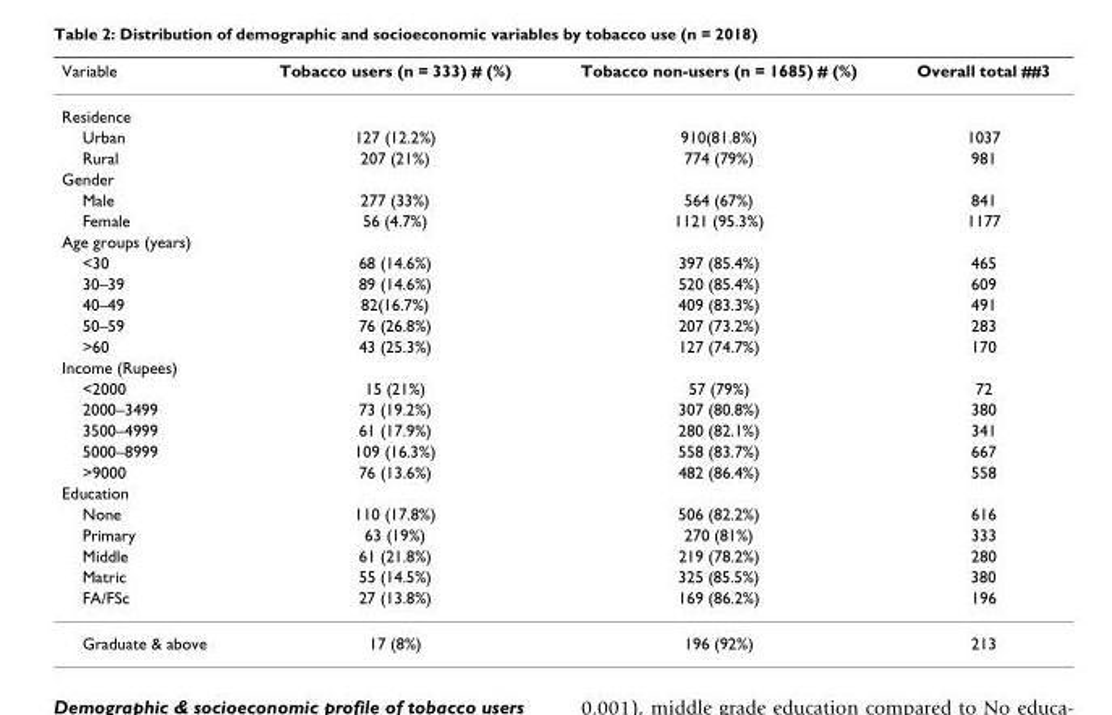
<table><thead><tr><td>Variable</td><td>Tobacco users (n = 333) # (%)</td><td>Tobacco non-users (n = 1685) # (%)</td><td>Overall total ##3</td></tr></thead><tbody><tr><td colspan="4">Residence</td></tr><tr><td>Urban</td><td>127 (12.2%)</td><td>910(81.8%)</td><td>1037</td></tr><tr><td>Rural</td><td>207 (21%)</td><td>774 (79%)</td><td>981</td></tr><tr><td colspan="4">Gender</td></tr><tr><td>Male</td><td>277 (33%)</td><td>564 (67%)</td><td>841</td></tr><tr><td>Female</td><td>56 (4.7%)</td><td>1121 (95.3%)</td><td>1177</td></tr><tr><td colspan="4">Age groups (years)</td></tr><tr><td>&lt;30</td><td>68 (14.6%)</td><td>397 (85.4%)</td><td>465</td></tr><tr><td>30–39</td><td>89 (14.6%)</td><td>520 (85.4%)</td><td>609</td></tr><tr><td>40–49</td><td>82(16.7%)</td><td>409 (83.3%)</td><td>491</td></tr><tr><td>50–59</td><td>76 (26.8%)</td><td>207 (73.2%)</td><td>283</td></tr><tr><td>&gt;60</td><td>43 (25.3%)</td><td>127 (74.7%)</td><td>170</td></tr><tr><td colspan="4">Income (Rupees)</td></tr><tr><td>&lt;2000</td><td>15 (21%)</td><td>57 (79%)</td><td>72</td></tr><tr><td>2000–3499</td><td>73 (19.2%)</td><td>307 (80.8%)</td><td>380</td></tr><tr><td>3500–4999</td><td>61 (17.9%)</td><td>280 (82.1%)</td><td>341</td></tr><tr><td>5000–8999</td><td>109 (16.3%)</td><td>558 (83.7%)</td><td>667</td></tr><tr><td>&gt;9000</td><td>76 (13.6%)</td><td>482 (86.4%)</td><td>558</td></tr><tr><td colspan="4">Education</td></tr><tr><td>None</td><td>110 (17.8%)</td><td>506 (82.2%)</td><td>616</td></tr><tr><td>Primary</td><td>63 (19%)</td><td>270 (81%)</td><td>333</td></tr><tr><td>Middle</td><td>61 (21.8%)</td><td>219 (78.2%)</td><td>280</td></tr><tr><td>Matric</td><td>55 (14.5%)</td><td>325 (85.5%)</td><td>380</td></tr><tr><td>FA/FSc</td><td>27 (13.8%)</td><td>169 (86.2%)</td><td>196</td></tr><tr><td>Graduate &amp; above</td><td>17 (8%)</td><td>196 (92%)</td><td>213</td></tr></tbody></table>